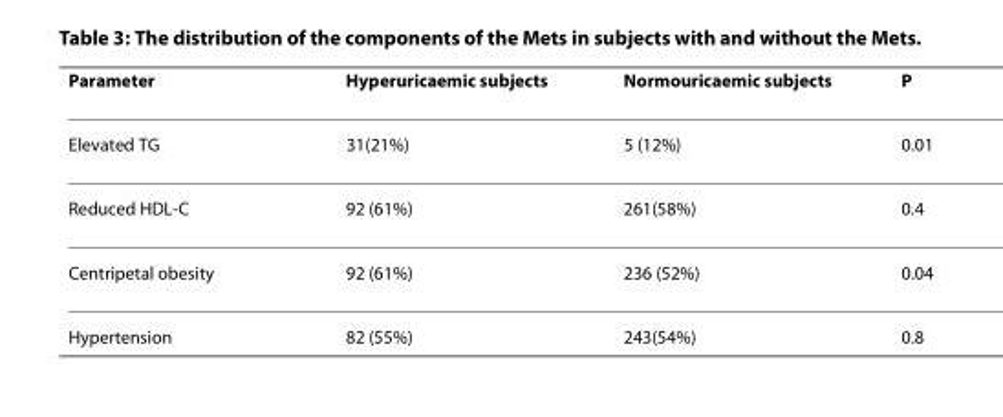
<table><thead><tr><td>Parameter</td><td>Hyperuricaemic subjects</td><td>Normouricaemic subjects</td><td>P</td></tr></thead><tbody><tr><td>Elevated TG</td><td>31(21%)</td><td>5 (12%)</td><td>0.01</td></tr><tr><td>Reduced HDL-C</td><td>92 (61%)</td><td>261(58%)</td><td>0.4</td></tr><tr><td>Centripetal obesity</td><td>92 (61%)</td><td>236 (52%)</td><td>0.04</td></tr><tr><td>Hypertension</td><td>82 (55%)</td><td>243(54%)</td><td>0.8</td></tr></tbody></table>